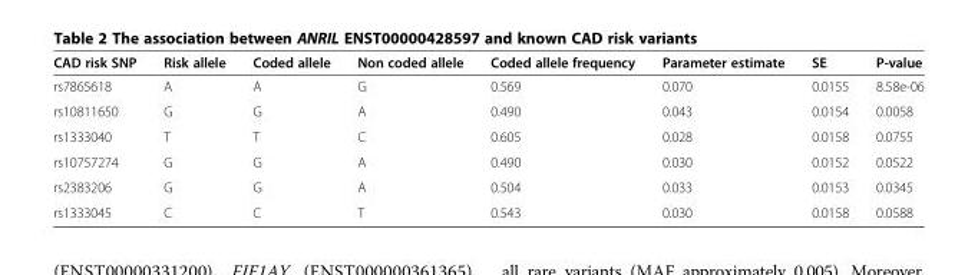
<table><thead><tr><td>CAD risk SNP</td><td>Risk allele</td><td>Coded allele</td><td>Non coded allele</td><td>Coded allele frequency</td><td>Parameter estimate</td><td>SE</td><td>P-value</td></tr></thead><tbody><tr><td>rs7865618</td><td>A</td><td>A</td><td>G</td><td>0.569</td><td>0.070</td><td>0.0155</td><td>8.58e-06</td></tr><tr><td>rs10811650</td><td>G</td><td>G</td><td>A</td><td>0.490</td><td>0.043</td><td>0.0154</td><td>0.0058</td></tr><tr><td>rs1333040</td><td>T</td><td>T</td><td>C</td><td>0.605</td><td>0.028</td><td>0.0158</td><td>0.0755</td></tr><tr><td>rs10757274</td><td>G</td><td>G</td><td>A</td><td>0.490</td><td>0.030</td><td>0.0152</td><td>0.0522</td></tr><tr><td>rs2383206</td><td>G</td><td>G</td><td>A</td><td>0.504</td><td>0.033</td><td>0.0153</td><td>0.0345</td></tr><tr><td>rs1333045</td><td>C</td><td>C</td><td>T</td><td>0.543</td><td>0.030</td><td>0.0158</td><td>0.0588</td></tr></tbody></table>